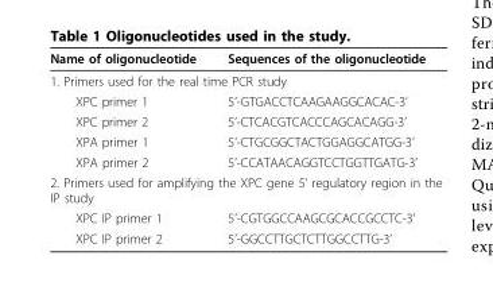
<table><thead><tr><td>Name of oligonucleotide</td><td>Sequences of the oligonucleotide</td></tr></thead><tbody><tr><td colspan="2">1. Primers used for the real time PCR study</td></tr><tr><td>XPC primer 1</td><td>5’-GTGACCTCAAGAAGGCACAC-3’</td></tr><tr><td>XPC primer 2</td><td>5’-CTCACGTCACCCAGCACAGG-3’</td></tr><tr><td>XPA primer 1</td><td>5’-CTGCGGCTACTGGAGGCATGG-3’</td></tr><tr><td>XPA primer 2</td><td>5’-CCATAACAGGTCCTGGTTGATG-3’</td></tr><tr><td colspan="2">2. Primers used for amplifying the XPC gene 5’ regulatory region in the IP study</td></tr><tr><td>XPC IP primer 1</td><td>5’-CGTGGCCAAGCGCACCGCCTC-3’</td></tr><tr><td>XPC IP primer 2</td><td>5’-GGCCTTGCTCTTGGCCTTG-3’</td></tr></tbody></table>